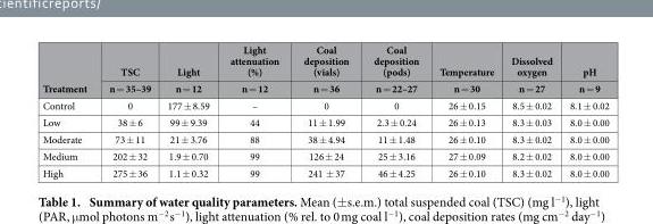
<table><thead><tr><td rowspan="2">Treatment</td><td rowspan="2">TSC n = 35–39</td><td rowspan="2">Light n = 12</td><td rowspan="2">Light attenuation (%) n = 12</td><td rowspan="2">Coal deposition (vials) n = 36</td><td rowspan="2">Coal deposition (pods) n = 22–27</td><td rowspan="2">Temperature n = 30</td><td rowspan="2">Dissolved oxygen n = 27</td><td rowspan="2">pH n = 9</td></tr><tr></tr></thead><tbody><tr><td>Control</td><td>0</td><td>177 ± 8.59</td><td>–</td><td>0</td><td>0</td><td>26 ± 0.15</td><td>8.5 ± 0.02</td><td>8.1 ± 0.02</td></tr><tr><td>Low</td><td>38 ± 6</td><td>99 ± 9.39</td><td>44</td><td>11 ± 1.99</td><td>2.3 ± 0.24</td><td>26 ± 0.13</td><td>8.3 ± 0.03</td><td>8.0 ± 0.00</td></tr><tr><td>Moderate</td><td>73 ± 11</td><td>21 ± 3.76</td><td>88</td><td>38 ± 4.94</td><td>11 ± 1.48</td><td>26 ± 0.10</td><td>8.3 ± 0.02</td><td>8.0 ± 0.00</td></tr><tr><td>Medium</td><td>202 ± 32</td><td>1.9 ± 0.70</td><td>99</td><td>126 ± 24</td><td>25 ± 3.16</td><td>27 ± 0.09</td><td>8.2 ± 0.02</td><td>8.0 ± 0.00</td></tr><tr><td>High</td><td>275 ± 36</td><td>1.1 ± 0.32</td><td>99</td><td>241 ± 37</td><td>46 ± 4.25</td><td>26 ± 0.10</td><td>8.3 ± 0.02</td><td>8.0 ± 0.00</td></tr></tbody></table>